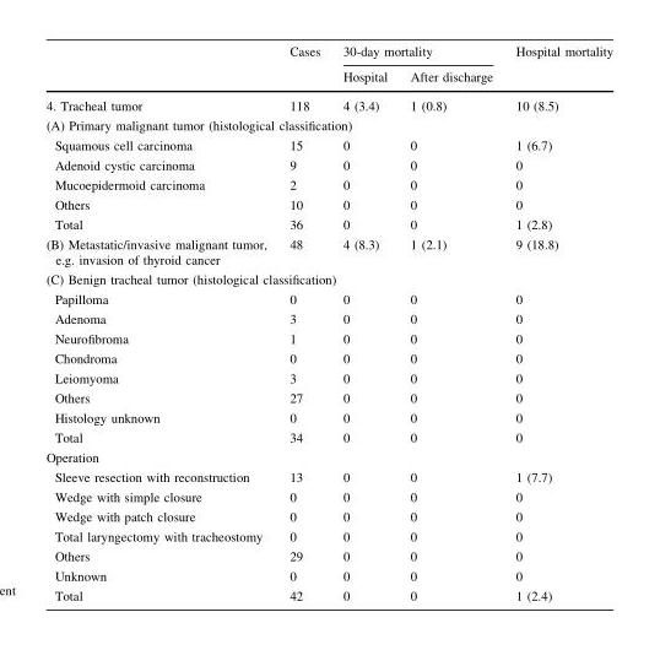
<table><thead><tr><td rowspan="2"></td><td rowspan="2">Cases</td><td colspan="2">30-day mortality</td><td rowspan="2">Hospital mortality</td></tr><tr><td>Hospital</td><td>After discharge</td></tr></thead><tbody><tr><td>4. Tracheal tumor</td><td>118</td><td>4 (3.4)</td><td>1 (0.8)</td><td>10 (8.5)</td></tr><tr><td colspan="5">(A) Primary malignant tumor (histological classification)</td></tr><tr><td>Squamous cell carcinoma</td><td>15</td><td>0</td><td>0</td><td>1 (6.7)</td></tr><tr><td>Adenoid cystic carcinoma</td><td>9</td><td>0</td><td>0</td><td>0</td></tr><tr><td>Mucoepidermoid carcinoma</td><td>2</td><td>0</td><td>0</td><td>0</td></tr><tr><td>Others</td><td>10</td><td>0</td><td>0</td><td>0</td></tr><tr><td>Total</td><td>36</td><td>0</td><td>0</td><td>1 (2.8)</td></tr><tr><td>(B) Metastatic/invasive malignant tumor, e.g. invasion of thyroid cancer</td><td>48</td><td>4 (8.3)</td><td>1 (2.1)</td><td>9 (18.8)</td></tr><tr><td colspan="5">(C) Benign tracheal tumor (histological classification)</td></tr><tr><td>Papilloma</td><td>0</td><td>0</td><td>0</td><td>0</td></tr><tr><td>Adenoma</td><td>3</td><td>0</td><td>0</td><td>0</td></tr><tr><td>Neurofibroma</td><td>1</td><td>0</td><td>0</td><td>0</td></tr><tr><td>Chondroma</td><td>0</td><td>0</td><td>0</td><td>0</td></tr><tr><td>Leiomyoma</td><td>3</td><td>0</td><td>0</td><td>0</td></tr><tr><td>Others</td><td>27</td><td>0</td><td>0</td><td>0</td></tr><tr><td>Histology unknown</td><td>0</td><td>0</td><td>0</td><td>0</td></tr><tr><td>Total</td><td>34</td><td>0</td><td>0</td><td>0</td></tr><tr><td colspan="5">Operation</td></tr><tr><td>Sleeve resection with reconstruction</td><td>13</td><td>0</td><td>0</td><td>1 (7.7)</td></tr><tr><td>Wedge with simple closure</td><td>0</td><td>0</td><td>0</td><td>0</td></tr><tr><td>Wedge with patch closure</td><td>0</td><td>0</td><td>0</td><td>0</td></tr><tr><td>Total laryngectomy with tracheostomy</td><td>0</td><td>0</td><td>0</td><td>0</td></tr><tr><td>Others</td><td>29</td><td>0</td><td>0</td><td>0</td></tr><tr><td>Unknown</td><td>0</td><td>0</td><td>0</td><td>0</td></tr><tr><td>Total</td><td>42</td><td>0</td><td>0</td><td>1 (2.4)</td></tr></tbody></table>